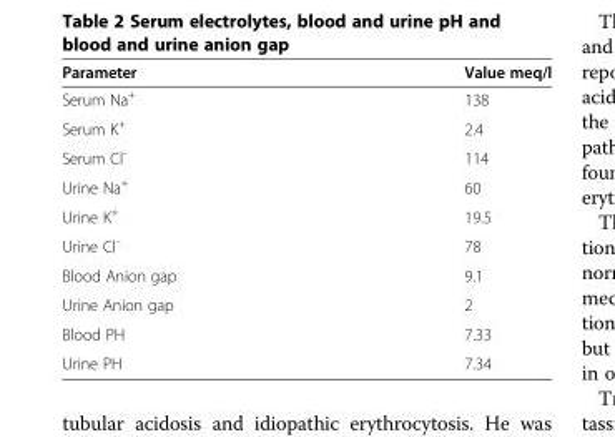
<table><thead><tr><td>Parameter</td><td>Value meq/l</td></tr></thead><tbody><tr><td>Serum Na<sup>+</sup></td><td>138</td></tr><tr><td>Serum K<sup>+</sup></td><td>2.4</td></tr><tr><td>Serum Cl<sup>-</sup></td><td>114</td></tr><tr><td>Urine Na<sup>+</sup></td><td>60</td></tr><tr><td>Urine K<sup>+</sup></td><td>19.5</td></tr><tr><td>Urine Cl<sup>-</sup></td><td>78</td></tr><tr><td>Blood Anion gap</td><td>9.1</td></tr><tr><td>Urine Anion gap</td><td>2</td></tr><tr><td>Blood PH</td><td>7.33</td></tr><tr><td>Urine PH</td><td>7.34</td></tr></tbody></table>